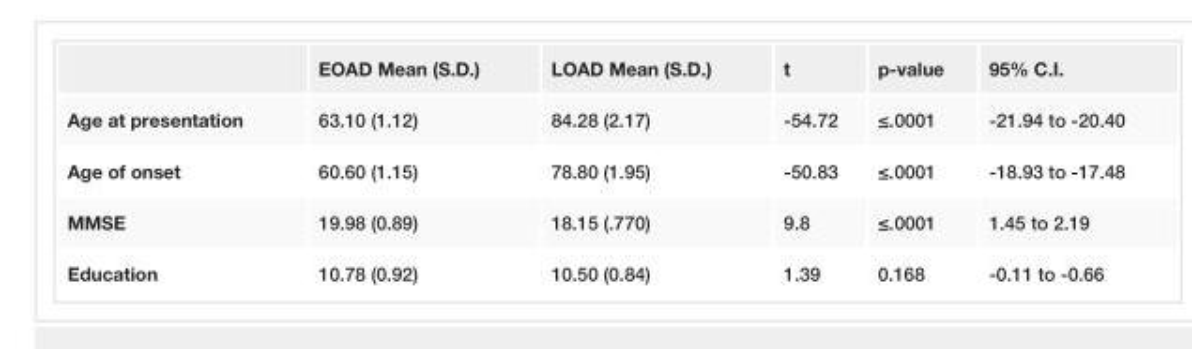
<table><thead><tr><td></td><td>EOAD Mean (S.D.)</td><td>LOAD Mean (S.D.)</td><td>t</td><td>p-value</td><td>95% C.I.</td></tr></thead><tbody><tr><td>Age at presentation</td><td>63.10 (1.12)</td><td>84.28 (2.17)</td><td>-54.72</td><td>≤.0001</td><td>-21.94 to -20.40</td></tr><tr><td>Age of onset</td><td>60.60 (1.15)</td><td>78.80 (1.95)</td><td>-50.83</td><td>≤.0001</td><td>-18.93 to -17.48</td></tr><tr><td>MMSE</td><td>19.98 (0.89)</td><td>18.15 (.770)</td><td>9.8</td><td>≤.0001</td><td>1.45 to 2.19</td></tr><tr><td>Education</td><td>10.78 (0.92)</td><td>10.50 (0.84)</td><td>1.39</td><td>0.168</td><td>-0.11 to -0.66</td></tr></tbody></table>